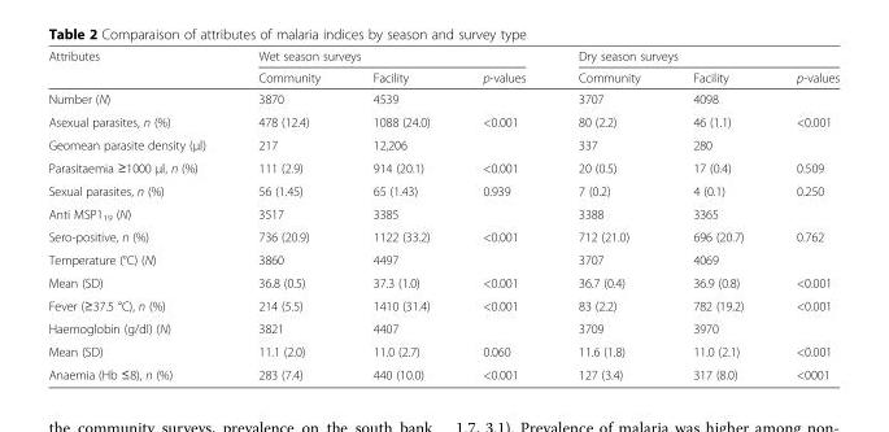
<table><thead><tr><td rowspan="2">Attributes</td><td colspan="3">Wet season surveys</td><td colspan="3">Dry season surveys</td></tr><tr><td>Community</td><td>Facility</td><td>p-values</td><td>Community</td><td>Facility</td><td>p-values</td></tr></thead><tbody><tr><td>Number (N)</td><td>3870</td><td>4539</td><td></td><td>3707</td><td>4098</td><td></td></tr><tr><td>Asexual parasites, n (%)</td><td>478 (12.4)</td><td>1088 (24.0)</td><td>&lt;0.001</td><td>80 (2.2)</td><td>46 (1.1)</td><td>&lt;0.001</td></tr><tr><td>Geomean parasite density (μl)</td><td>217</td><td>12,206</td><td></td><td>337</td><td>280</td><td></td></tr><tr><td>Parasitaemia ≥1000 μl, n (%)</td><td>111 (2.9)</td><td>914 (20.1)</td><td>&lt;0.001</td><td>20 (0.5)</td><td>17 (0.4)</td><td>0.509</td></tr><tr><td>Sexual parasites, n (%)</td><td>56 (1.45)</td><td>65 (1.43)</td><td>0.939</td><td>7 (0.2)</td><td>4 (0.1)</td><td>0.250</td></tr><tr><td>Anti MSP1<sub>19</sub> (N)</td><td>3517</td><td>3385</td><td></td><td>3388</td><td>3365</td><td></td></tr><tr><td>Sero-positive, n (%)</td><td>736 (20.9)</td><td>1122 (33.2)</td><td>&lt;0.001</td><td>712 (21.0)</td><td>696 (20.7)</td><td>0.762</td></tr><tr><td>Temperature (°C) (N)</td><td>3860</td><td>4497</td><td></td><td>3707</td><td>4069</td><td></td></tr><tr><td>Mean (SD)</td><td>36.8 (0.5)</td><td>37.3 (1.0)</td><td>&lt;0.001</td><td>36.7 (0.4)</td><td>36.9 (0.8)</td><td>&lt;0.001</td></tr><tr><td>Fever (≥37.5 °C), n (%)</td><td>214 (5.5)</td><td>1410 (31.4)</td><td>&lt;0.001</td><td>83 (2.2)</td><td>782 (19.2)</td><td>&lt;0.001</td></tr><tr><td>Haemoglobin (g/dl) (N)</td><td>3821</td><td>4407</td><td></td><td>3709</td><td>3970</td><td></td></tr><tr><td>Mean (SD)</td><td>11.1 (2.0)</td><td>11.0 (2.7)</td><td>0.060</td><td>11.6 (1.8)</td><td>11.0 (2.1)</td><td>&lt;0.001</td></tr><tr><td>Anaemia (Hb ≤8), n (%)</td><td>283 (7.4)</td><td>440 (10.0)</td><td>&lt;0.001</td><td>127 (3.4)</td><td>317 (8.0)</td><td>&lt;0001</td></tr></tbody></table>